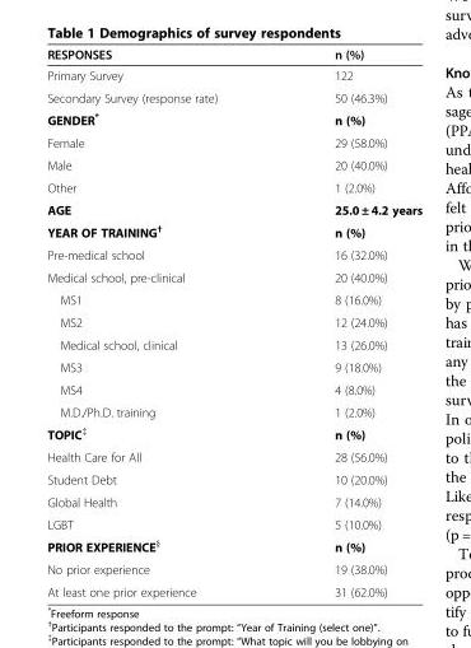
<table><thead><tr><td>RESPONSES</td><td>n (%)</td></tr></thead><tbody><tr><td>Primary Survey</td><td>122</td></tr><tr><td>Secondary Survey (response rate)</td><td>50 (46.3%)</td></tr><tr><td>GENDER*</td><td>n (%)</td></tr><tr><td>Female</td><td>29 (58.0%)</td></tr><tr><td>Male</td><td>20 (40.0%)</td></tr><tr><td>Other</td><td>1 (2.0%)</td></tr><tr><td>AGE</td><td>25.0 ± 4.2 years</td></tr><tr><td>YEAR OF TRAINING<sup>†</sup></td><td>n (%)</td></tr><tr><td>Pre-medical school</td><td>16 (32.0%)</td></tr><tr><td>Medical school, pre-clinical</td><td>20 (40.0%)</td></tr><tr><td>MS1</td><td>8 (16.0%)</td></tr><tr><td>MS2</td><td>12 (24.0%)</td></tr><tr><td>Medical school, clinical</td><td>13 (26.0%)</td></tr><tr><td>MS3</td><td>9 (18.0%)</td></tr><tr><td>MS4</td><td>4 (8.0%)</td></tr><tr><td>M.D./Ph.D. training</td><td>1 (2.0%)</td></tr><tr><td>TOPIC<sup>‡</sup></td><td>n (%)</td></tr><tr><td>Health Care for All</td><td>28 (56.0%)</td></tr><tr><td>Student Debt</td><td>10 (20.0%)</td></tr><tr><td>Global Health</td><td>7 (14.0%)</td></tr><tr><td>LGBT</td><td>5 (10.0%)</td></tr><tr><td>PRIOR EXPERIENCE<sup>§</sup></td><td>n (%)</td></tr><tr><td>No prior experience</td><td>19 (38.0%)</td></tr><tr><td>At least one prior experience</td><td>31 (62.0%)</td></tr></tbody></table>